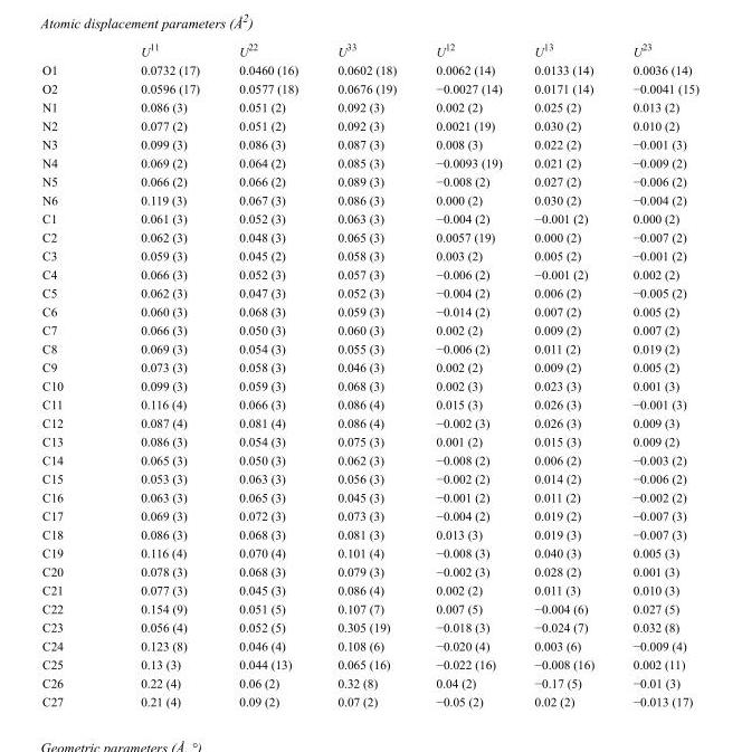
<table><thead><tr><td></td><td>U<sup>11</sup></td><td>U<sup>22</sup></td><td>U<sup>33</sup></td><td>U<sup>12</sup></td><td>U<sup>13</sup></td><td>U<sup>23</sup></td></tr></thead><tbody><tr><td>O1</td><td>0.0732 (17)</td><td>0.0460 (16)</td><td>0.0602 (18)</td><td>0.0062 (14)</td><td>0.0133 (14)</td><td>0.0036 (14)</td></tr><tr><td>O2</td><td>0.0596 (17)</td><td>0.0577 (18)</td><td>0.0676 (19)</td><td>−0.0027 (14)</td><td>0.0171 (14)</td><td>−0.0041 (15)</td></tr><tr><td>N1</td><td>0.086 (3)</td><td>0.051 (2)</td><td>0.092 (3)</td><td>0.002 (2)</td><td>0.025 (2)</td><td>0.013 (2)</td></tr><tr><td>N2</td><td>0.077 (2)</td><td>0.051 (2)</td><td>0.092 (3)</td><td>0.0021 (19)</td><td>0.030 (2)</td><td>0.010 (2)</td></tr><tr><td>N3</td><td>0.099 (3)</td><td>0.086 (3)</td><td>0.087 (3)</td><td>0.008 (3)</td><td>0.022 (2)</td><td>−0.001 (3)</td></tr><tr><td>N4</td><td>0.069 (2)</td><td>0.064 (2)</td><td>0.085 (3)</td><td>−0.0093 (19)</td><td>0.021 (2)</td><td>−0.009 (2)</td></tr><tr><td>N5</td><td>0.066 (2)</td><td>0.066 (2)</td><td>0.089 (3)</td><td>−0.008 (2)</td><td>0.027 (2)</td><td>−0.006 (2)</td></tr><tr><td>N6</td><td>0.119 (3)</td><td>0.067 (3)</td><td>0.086 (3)</td><td>0.000 (2)</td><td>0.030 (2)</td><td>−0.004 (2)</td></tr><tr><td>C1</td><td>0.061 (3)</td><td>0.052 (3)</td><td>0.063 (3)</td><td>−0.004 (2)</td><td>−0.001 (2)</td><td>0.000 (2)</td></tr><tr><td>C2</td><td>0.062 (3)</td><td>0.048 (3)</td><td>0.065 (3)</td><td>0.0057 (19)</td><td>0.000 (2)</td><td>−0.007 (2)</td></tr><tr><td>C3</td><td>0.059 (3)</td><td>0.045 (2)</td><td>0.058 (3)</td><td>0.003 (2)</td><td>0.005 (2)</td><td>−0.001 (2)</td></tr><tr><td>C4</td><td>0.066 (3)</td><td>0.052 (3)</td><td>0.057 (3)</td><td>−0.006 (2)</td><td>−0.001 (2)</td><td>0.002 (2)</td></tr><tr><td>C5</td><td>0.062 (3)</td><td>0.047 (3)</td><td>0.052 (3)</td><td>−0.004 (2)</td><td>0.006 (2)</td><td>−0.005 (2)</td></tr><tr><td>C6</td><td>0.060 (3)</td><td>0.068 (3)</td><td>0.059 (3)</td><td>−0.014 (2)</td><td>0.007 (2)</td><td>0.005 (2)</td></tr><tr><td>C7</td><td>0.066 (3)</td><td>0.050 (3)</td><td>0.060 (3)</td><td>0.002 (2)</td><td>0.009 (2)</td><td>0.007 (2)</td></tr><tr><td>C8</td><td>0.069 (3)</td><td>0.054 (3)</td><td>0.055 (3)</td><td>−0.006 (2)</td><td>0.011 (2)</td><td>0.019 (2)</td></tr><tr><td>C9</td><td>0.073 (3)</td><td>0.058 (3)</td><td>0.046 (3)</td><td>0.002 (2)</td><td>0.009 (2)</td><td>0.005 (2)</td></tr><tr><td>C10</td><td>0.099 (3)</td><td>0.059 (3)</td><td>0.068 (3)</td><td>0.002 (3)</td><td>0.023 (3)</td><td>0.001 (3)</td></tr><tr><td>C11</td><td>0.116 (4)</td><td>0.066 (3)</td><td>0.086 (4)</td><td>0.015 (3)</td><td>0.026 (3)</td><td>−0.001 (3)</td></tr><tr><td>C12</td><td>0.087 (4)</td><td>0.081 (4)</td><td>0.086 (4)</td><td>−0.002 (3)</td><td>0.026 (3)</td><td>0.009 (3)</td></tr><tr><td>C13</td><td>0.086 (3)</td><td>0.054 (3)</td><td>0.075 (3)</td><td>0.001 (2)</td><td>0.015 (3)</td><td>0.009 (2)</td></tr><tr><td>C14</td><td>0.065 (3)</td><td>0.050 (3)</td><td>0.062 (3)</td><td>−0.008 (2)</td><td>0.006 (2)</td><td>−0.003 (2)</td></tr><tr><td>C15</td><td>0.053 (3)</td><td>0.063 (3)</td><td>0.056 (3)</td><td>−0.002 (2)</td><td>0.014 (2)</td><td>−0.006 (2)</td></tr><tr><td>C16</td><td>0.063 (3)</td><td>0.065 (3)</td><td>0.045 (3)</td><td>−0.001 (2)</td><td>0.011 (2)</td><td>−0.002 (2)</td></tr><tr><td>C17</td><td>0.069 (3)</td><td>0.072 (3)</td><td>0.073 (3)</td><td>−0.004 (2)</td><td>0.019 (2)</td><td>−0.007 (3)</td></tr><tr><td>C18</td><td>0.086 (3)</td><td>0.068 (3)</td><td>0.081 (3)</td><td>0.013 (3)</td><td>0.019 (3)</td><td>−0.007 (3)</td></tr><tr><td>C19</td><td>0.116 (4)</td><td>0.070 (4)</td><td>0.101 (4)</td><td>−0.008 (3)</td><td>0.040 (3)</td><td>0.005 (3)</td></tr><tr><td>C20</td><td>0.078 (3)</td><td>0.068 (3)</td><td>0.079 (3)</td><td>−0.002 (3)</td><td>0.028 (2)</td><td>0.001 (3)</td></tr><tr><td>C21</td><td>0.077 (3)</td><td>0.045 (3)</td><td>0.086 (4)</td><td>0.002 (2)</td><td>0.011 (3)</td><td>0.010 (3)</td></tr><tr><td>C22</td><td>0.154 (9)</td><td>0.051 (5)</td><td>0.107 (7)</td><td>0.007 (5)</td><td>−0.004 (6)</td><td>0.027 (5)</td></tr><tr><td>C23</td><td>0.056 (4)</td><td>0.052 (5)</td><td>0.305 (19)</td><td>−0.018 (3)</td><td>−0.024 (7)</td><td>0.032 (8)</td></tr><tr><td>C24</td><td>0.123 (8)</td><td>0.046 (4)</td><td>0.108 (6)</td><td>−0.020 (4)</td><td>0.003 (6)</td><td>−0.009 (4)</td></tr><tr><td>C25</td><td>0.13 (3)</td><td>0.044 (13)</td><td>0.065 (16)</td><td>−0.022 (16)</td><td>−0.008 (16)</td><td>0.002 (11)</td></tr><tr><td>C26</td><td>0.22 (4)</td><td>0.06 (2)</td><td>0.32 (8)</td><td>0.04 (2)</td><td>−0.17 (5)</td><td>−0.01 (3)</td></tr><tr><td>C27</td><td>0.21 (4)</td><td>0.09 (2)</td><td>0.07 (2)</td><td>−0.05 (2)</td><td>0.02 (2)</td><td>−0.013 (17)</td></tr></tbody></table>